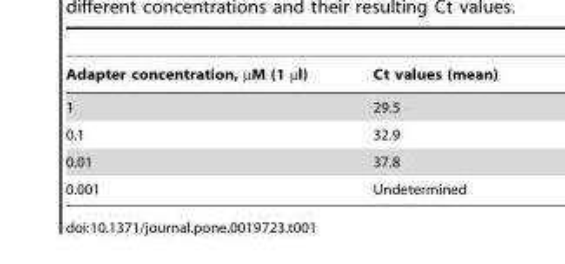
<table><thead><tr><td>Adapter concentration, µM (1 µl)</td><td>Ct values (mean)</td></tr></thead><tbody><tr><td>1</td><td>29.5</td></tr><tr><td>0.1</td><td>32.9</td></tr><tr><td>0.01</td><td>37.8</td></tr><tr><td>0.001</td><td>Undetermined</td></tr></tbody></table>